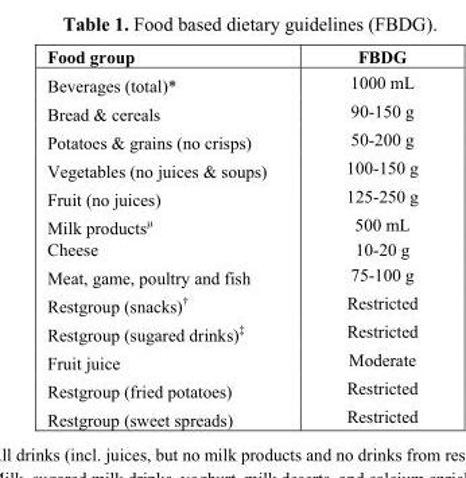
<table><thead><tr><td>Food group</td><td>FBDG</td></tr></thead><tbody><tr><td>Beverages (total)*</td><td>1000 mL</td></tr><tr><td>Bread &amp; cereals</td><td>90-150 g</td></tr><tr><td>Potatoes &amp; grains (no crisps)</td><td>50-200 g</td></tr><tr><td>Vegetables (no juices &amp; soups)</td><td>100-150 g</td></tr><tr><td>Fruit (no juices)</td><td>125-250 g</td></tr><tr><td>Milk products<sup>µ</sup></td><td>500 mL</td></tr><tr><td>Cheese</td><td>10-20 g</td></tr><tr><td>Meat, game, poultry and fish</td><td>75-100 g</td></tr><tr><td>Restgroup (snacks)<sup>†</sup></td><td>Restricted</td></tr><tr><td>Restgroup (sugared drinks)<sup>‡</sup></td><td>Restricted</td></tr><tr><td>Fruit juice</td><td>Moderate</td></tr><tr><td>Restgroup (fried potatoes)</td><td>Restricted</td></tr><tr><td>Restgroup (sweet spreads)</td><td>Restricted</td></tr></tbody></table>